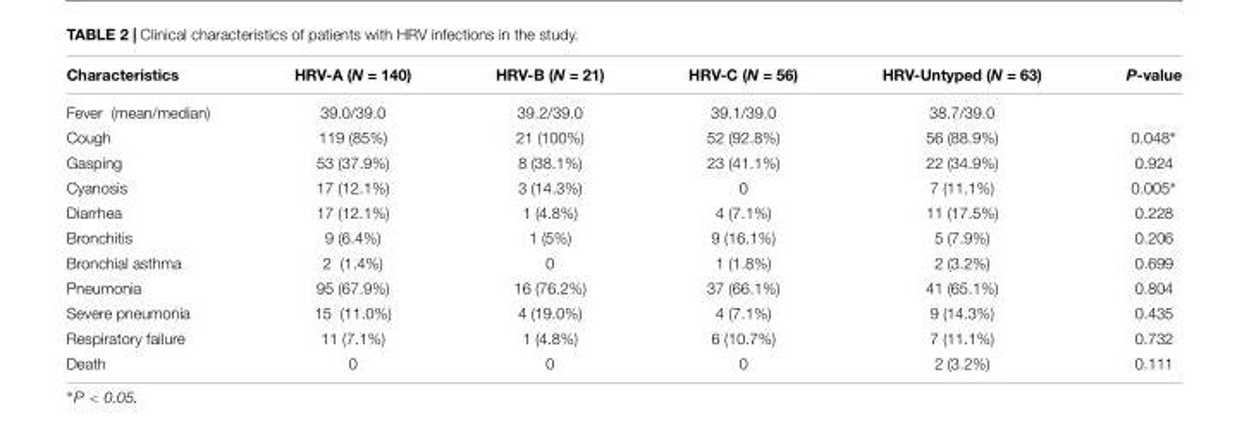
<table><thead><tr><td>Characteristics</td><td>HRV-A (N = 140)</td><td>HRV-B (N = 21)</td><td>HRV-C (N = 56)</td><td>HRV-Untyped (N = 63)</td><td>P-value</td></tr></thead><tbody><tr><td>Fever (mean/median)</td><td>39.0/39.0</td><td>39.2/39.0</td><td>39.1/39.0</td><td>38.7/39.0</td><td></td></tr><tr><td>Cough</td><td>119 (85%)</td><td>21 (100%)</td><td>52 (92.8%)</td><td>56 (88.9%)</td><td>0.048∗</td></tr><tr><td>Gasping</td><td>53 (37.9%)</td><td>8 (38.1%)</td><td>23 (41.1%)</td><td>22 (34.9%)</td><td>0.924</td></tr><tr><td>Cyanosis</td><td>17 (12.1%)</td><td>3 (14.3%)</td><td>0</td><td>7 (11.1%)</td><td>0.005∗</td></tr><tr><td>Diarrhea</td><td>17 (12.1%)</td><td>1 (4.8%)</td><td>4 (7.1%)</td><td>11 (17.5%)</td><td>0.228</td></tr><tr><td>Bronchitis</td><td>9 (6.4%)</td><td>1 (5%)</td><td>9 (16.1%)</td><td>5 (7.9%)</td><td>0.206</td></tr><tr><td>Bronchial asthma</td><td>2 (1.4%)</td><td>0</td><td>1 (1.8%)</td><td>2 (3.2%)</td><td>0.699</td></tr><tr><td>Pneumonia</td><td>95 (67.9%)</td><td>16 (76.2%)</td><td>37 (66.1%)</td><td>41 (65.1%)</td><td>0.804</td></tr><tr><td>Severe pneumonia</td><td>15 (11.0%)</td><td>4 (19.0%)</td><td>4 (7.1%)</td><td>9 (14.3%)</td><td>0.435</td></tr><tr><td>Respiratory failure</td><td>11 (7.1%)</td><td>1 (4.8%)</td><td>6 (10.7%)</td><td>7 (11.1%)</td><td>0.732</td></tr><tr><td>Death</td><td>0</td><td>0</td><td>0</td><td>2 (3.2%)</td><td>0.111</td></tr></tbody></table>